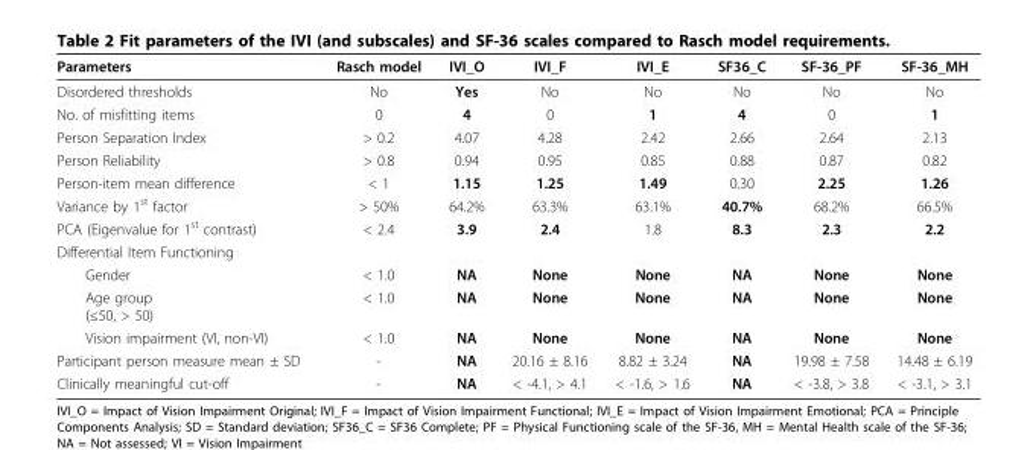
<table><thead><tr><td>Parameters</td><td>Rasch model</td><td>IVI_O</td><td>IVI_F</td><td>IVI_E</td><td>SF36_C</td><td>SF-36_PF</td><td>SF-36_MH</td></tr></thead><tbody><tr><td>Disordered thresholds</td><td>No</td><td>Yes</td><td>No</td><td>No</td><td>No</td><td>No</td><td>No</td></tr><tr><td>No. of misfitting items</td><td>0</td><td>4</td><td>0</td><td>1</td><td>4</td><td>0</td><td>1</td></tr><tr><td>Person Separation Index</td><td>&gt; 0.2</td><td>4.07</td><td>4.28</td><td>2.42</td><td>2.66</td><td>2.64</td><td>2.13</td></tr><tr><td>Person Reliability</td><td>&gt; 0.8</td><td>0.94</td><td>0.95</td><td>0.85</td><td>0.88</td><td>0.87</td><td>0.82</td></tr><tr><td>Person-item mean difference</td><td>&lt; 1</td><td>1.15</td><td>1.25</td><td>1.49</td><td>0.30</td><td>2.25</td><td>1.26</td></tr><tr><td>Variance by 1<sup>st</sup> factor</td><td>&gt; 50%</td><td>64.2%</td><td>63.3%</td><td>63.1%</td><td>40.7%</td><td>68.2%</td><td>66.5%</td></tr><tr><td>PCA (Eigenvalue for 1<sup>st</sup> contrast)</td><td>&lt; 2.4</td><td>3.9</td><td>2.4</td><td>1.8</td><td>8.3</td><td>2.3</td><td>2.2</td></tr><tr><td colspan="8">Differential Item Functioning</td></tr><tr><td>Gender</td><td>&lt; 1.0</td><td>NA</td><td>None</td><td>None</td><td>NA</td><td>None</td><td>None</td></tr><tr><td>Age group (≤50, &gt; 50)</td><td>&lt; 1.0</td><td>NA</td><td>None</td><td>None</td><td>NA</td><td>None</td><td>None</td></tr><tr><td>Vision impairment (VI, non-VI)</td><td>&lt; 1.0</td><td>NA</td><td>None</td><td>None</td><td>NA</td><td>None</td><td>None</td></tr><tr><td>Participant person measure mean ± SD</td><td>-</td><td>NA</td><td>20.16 ± 8.16</td><td>8.82 ± 3.24</td><td>NA</td><td>19.98 ± 7.58</td><td>14.48 ± 6.19</td></tr><tr><td>Clinically meaningful cut-off</td><td>-</td><td>NA</td><td>&lt; -4.1, &gt; 4.1</td><td>&lt; -1.6, &gt; 1.6</td><td>NA</td><td>&lt; -3.8, &gt; 3.8</td><td>&lt; -3.1, &gt; 3.1</td></tr></tbody></table>